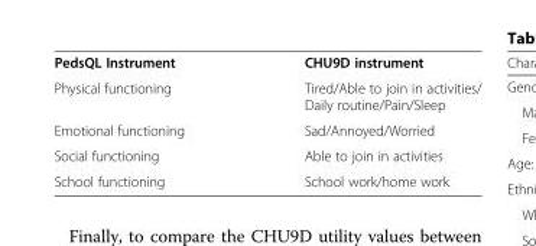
<table><tbody><tr><td>PedsQL Instrument</td><td>CHU9D instrument</td></tr><tr><td>Physical functioning</td><td>Tired/Able to join in activities/ Daily routine/Pain/Sleep</td></tr><tr><td>Emotional functioning</td><td>Sad/Annoyed/Worried</td></tr><tr><td>Social functioning</td><td>Able to join in activities</td></tr><tr><td>School functioning</td><td>School work/home work</td></tr></tbody></table>